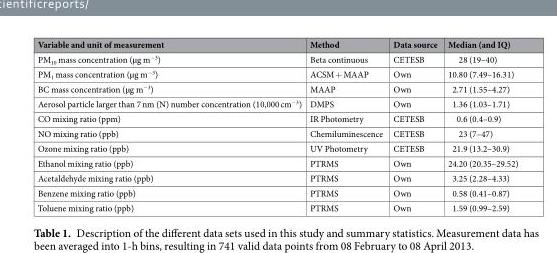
<table><thead><tr><td>Variable and unit of measurement</td><td>Method</td><td>Data source</td><td>Median (and IQ)</td></tr></thead><tbody><tr><td>PM<sub>10</sub> mass concentration (µg m<sup>−3</sup>)</td><td>Beta continuous</td><td>CETESB</td><td>28 (19–40)</td></tr><tr><td>PM<sub>1</sub> mass concentration (µg m<sup>−3</sup>)</td><td>ACSM + MAAP</td><td>Own</td><td>10.80 (7.49–16.31)</td></tr><tr><td>BC mass concentration (µg m<sup>−3</sup>)</td><td>MAAP</td><td>Own</td><td>2.71 (1.55–4.27)</td></tr><tr><td>Aerosol particle larger than 7 nm (N) number concentration (10,000 cm<sup>−3</sup>)</td><td>DMPS</td><td>Own</td><td>1.36 (1.03–1.71)</td></tr><tr><td>CO mixing ratio (ppm)</td><td>IR Photometry</td><td>CETESB</td><td>0.6 (0.4–0.9)</td></tr><tr><td>NO mixing ratio (ppb)</td><td>Chemiluminescence</td><td>CETESB</td><td>23 (7–47)</td></tr><tr><td>Ozone mixing ratio (ppb)</td><td>UV Photometry</td><td>CETESB</td><td>21.9 (13.2–30.9)</td></tr><tr><td>Ethanol mixing ratio (ppb)</td><td>PTRMS</td><td>Own</td><td>24.20 (20.35–29.52)</td></tr><tr><td>Acetaldehyde mixing ratio (ppb)</td><td>PTRMS</td><td>Own</td><td>3.25 (2.28–4.33)</td></tr><tr><td>Benzene mixing ratio (ppb)</td><td>PTRMS</td><td>Own</td><td>0.58 (0.41–0.87)</td></tr><tr><td>Toluene mixing ratio (ppb)</td><td>PTRMS</td><td>Own</td><td>1.59 (0.99–2.59)</td></tr></tbody></table>